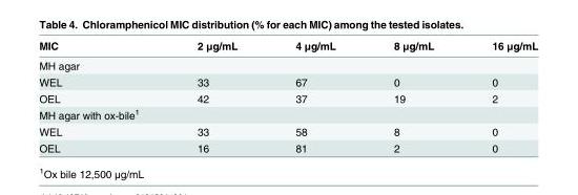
<table><thead><tr><td>MIC</td><td>2 μg/mL</td><td>4 μg/mL</td><td>8 μg/mL</td><td>16 μg/mL</td></tr></thead><tbody><tr><td colspan="5">MH agar</td></tr><tr><td>WEL</td><td>33</td><td>67</td><td>0</td><td>0</td></tr><tr><td>OEL</td><td>42</td><td>37</td><td>19</td><td>2</td></tr><tr><td colspan="5">MH agar with ox-bile<sup>1</sup></td></tr><tr><td>WEL</td><td>33</td><td>58</td><td>8</td><td>0</td></tr><tr><td>OEL</td><td>16</td><td>81</td><td>2</td><td>0</td></tr></tbody></table>